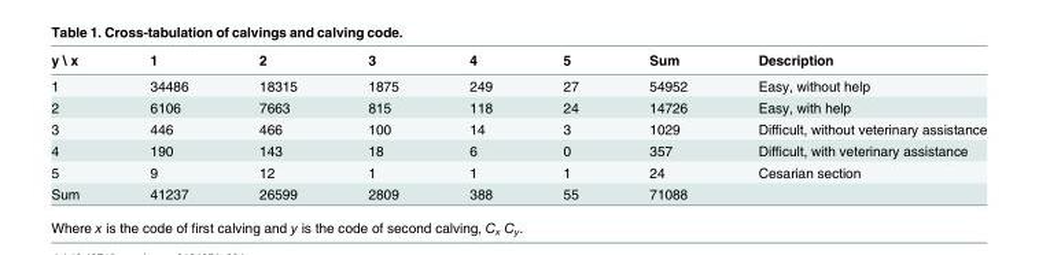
<table><thead><tr><td>y \ x</td><td>1</td><td>2</td><td>3</td><td>4</td><td>5</td><td>Sum</td><td>Description</td></tr></thead><tbody><tr><td>1</td><td>34486</td><td>18315</td><td>1875</td><td>249</td><td>27</td><td>54952</td><td>Easy, without help</td></tr><tr><td>2</td><td>6106</td><td>7663</td><td>815</td><td>118</td><td>24</td><td>14726</td><td>Easy, with help</td></tr><tr><td>3</td><td>446</td><td>466</td><td>100</td><td>14</td><td>3</td><td>1029</td><td>Difficult, without veterinary assistance</td></tr><tr><td>4</td><td>190</td><td>143</td><td>18</td><td>6</td><td>0</td><td>357</td><td>Difficult, with veterinary assistance</td></tr><tr><td>5</td><td>9</td><td>12</td><td>1</td><td>1</td><td>1</td><td>24</td><td>Cesarian section</td></tr><tr><td>Sum</td><td>41237</td><td>26599</td><td>2809</td><td>388</td><td>55</td><td>71088</td><td></td></tr></tbody></table>